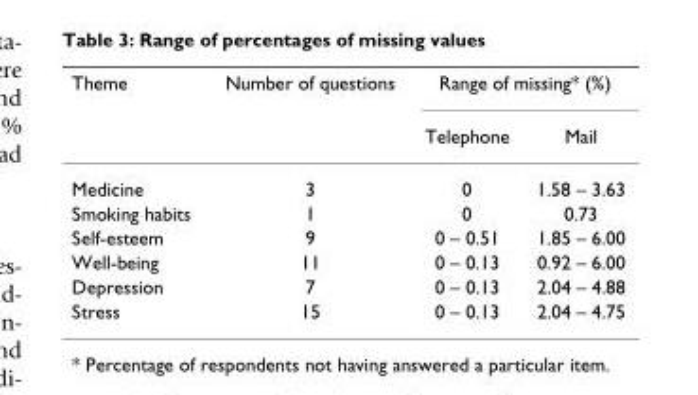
<table><thead><tr><td rowspan="2">Theme</td><td rowspan="2">Number of questions</td><td colspan="2">Range of missing* (%)</td></tr><tr><td>Telephone</td><td>Mail</td></tr></thead><tbody><tr><td>Medicine</td><td>3</td><td>0</td><td>1.58 – 3.63</td></tr><tr><td>Smoking habits</td><td>1</td><td>0</td><td>0.73</td></tr><tr><td>Self-esteem</td><td>9</td><td>0 – 0.51</td><td>1.85 – 6.00</td></tr><tr><td>Well-being</td><td>11</td><td>0 – 0.13</td><td>0.92 – 6.00</td></tr><tr><td>Depression</td><td>7</td><td>0 – 0.13</td><td>2.04 – 4.88</td></tr><tr><td>Stress</td><td>15</td><td>0 – 0.13</td><td>2.04 – 4.75</td></tr></tbody></table>